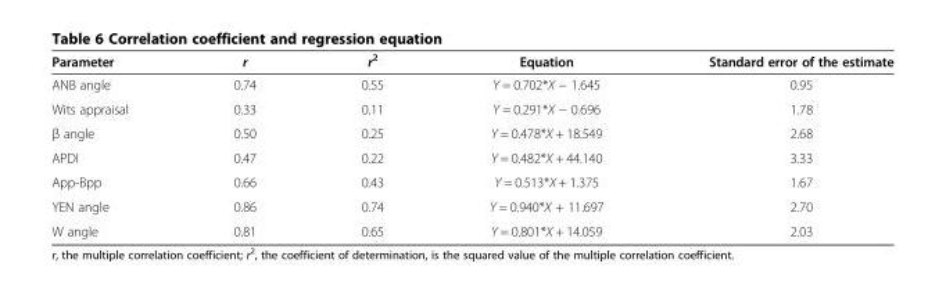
<table><thead><tr><td>Parameter</td><td>r</td><td>r<sup>2</sup></td><td>Equation</td><td>Standard error of the estimate</td></tr></thead><tbody><tr><td>ANB angle</td><td>0.74</td><td>0.55</td><td>Y = 0.702*X − 1.645</td><td>0.95</td></tr><tr><td>Wits appraisal</td><td>0.33</td><td>0.11</td><td>Y = 0.291*X − 0.696</td><td>1.78</td></tr><tr><td>β angle</td><td>0.50</td><td>0.25</td><td>Y = 0.478*X + 18.549</td><td>2.68</td></tr><tr><td>APDI</td><td>0.47</td><td>0.22</td><td>Y = 0.482*X + 44.140</td><td>3.33</td></tr><tr><td>App-Bpp</td><td>0.66</td><td>0.43</td><td>Y = 0.513*X + 1.375</td><td>1.67</td></tr><tr><td>YEN angle</td><td>0.86</td><td>0.74</td><td>Y = 0.940*X + 11.697</td><td>2.70</td></tr><tr><td>W angle</td><td>0.81</td><td>0.65</td><td>Y = 0.801*X + 14.059</td><td>2.03</td></tr></tbody></table>